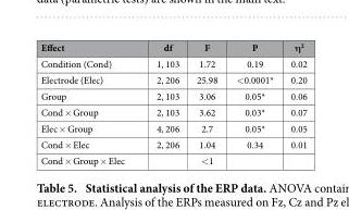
<table><thead><tr><td>Effect</td><td>df</td><td>F</td><td>P</td><td>η<sup>2</sup></td></tr></thead><tbody><tr><td>Condition (Cond)</td><td>1, 103</td><td>1.72</td><td>0.19</td><td>0.02</td></tr><tr><td>Electrode (Elec)</td><td>2, 206</td><td>25.98</td><td>&lt; 0.0001*</td><td>0.20</td></tr><tr><td>Group</td><td>2, 103</td><td>3.06</td><td>0.05*</td><td>0.06</td></tr><tr><td>Cond × Group</td><td>2, 103</td><td>3.62</td><td>0.03*</td><td>0.07</td></tr><tr><td>Elec × Group</td><td>4, 206</td><td>2.7</td><td>0.05*</td><td>0.05</td></tr><tr><td>Cond × Elec</td><td>2, 206</td><td>1.04</td><td>0.34</td><td>0.01</td></tr><tr><td>Cond × Group × Elec</td><td></td><td>&lt; 1</td><td></td><td></td></tr></tbody></table>